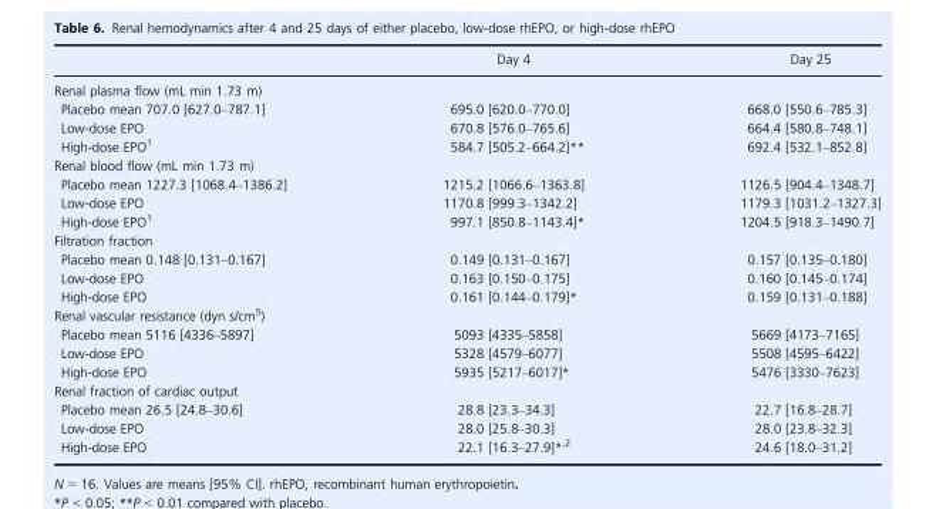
<table><thead><tr><td></td><td>Day 4</td><td>Day 25</td></tr></thead><tbody><tr><td colspan="3">Renal plasma flow (mL min 1.73 m)</td></tr><tr><td>Placebo mean 707.0 [627.0–787.1]</td><td>695.0 [620.0–770.0]</td><td>668.0 [550.6–785.3]</td></tr><tr><td>Low-dose EPO</td><td>670.8 [576.0–765.6]</td><td>664.4 [580.8–748.1]</td></tr><tr><td>High-dose EPO<sup>1</sup></td><td>584.7 [505.2–664.2]**</td><td>692.4 [532.1–852.8]</td></tr><tr><td colspan="3">Renal blood flow (mL min 1.73 m)</td></tr><tr><td>Placebo mean 1227.3 [1068.4–1386.2]</td><td>1215.2 [1066.6–1363.8]</td><td>1126.5 [904.4–1348.7]</td></tr><tr><td>Low-dose EPO</td><td>1170.8 [999.3–1342.2]</td><td>1179.3 [1031.2–1327.3]</td></tr><tr><td>High-dose EPO<sup>1</sup></td><td>997.1 [850.8–1143.4]*</td><td>1204.5 [918.3–1490.7]</td></tr><tr><td colspan="3">Filtration fraction</td></tr><tr><td>Placebo mean 0.148 [0.131–0.167]</td><td>0.149 [0.131–0.167]</td><td>0.157 [0.135–0.180]</td></tr><tr><td>Low-dose EPO</td><td>0.163 [0.150–0.175]</td><td>0.160 [0.145–0.174]</td></tr><tr><td>High-dose EPO</td><td>0.161 [0.144–0.179]*</td><td>0.159 [0.131–0.188]</td></tr><tr><td colspan="3">Renal vascular resistance (dyn s/cm<sup>5</sup>)</td></tr><tr><td>Placebo mean 5116 [4336–5897]</td><td>5093 [4335–5858]</td><td>5669 [4173–7165]</td></tr><tr><td>Low-dose EPO</td><td>5328 [4579–6077]</td><td>5508 [4595–6422]</td></tr><tr><td>High-dose EPO</td><td>5935 [5217–6017]*</td><td>5476 [3330–7623]</td></tr><tr><td colspan="3">Renal fraction of cardiac output</td></tr><tr><td>Placebo mean 26.5 [24.8–30.6]</td><td>28.8 [23.3–34.3]</td><td>22.7 [16.8–28.7]</td></tr><tr><td>Low-dose EPO</td><td>28.0 [25.8–30.3]</td><td>28.0 [23.8–32.3]</td></tr><tr><td>High-dose EPO</td><td>22.1 [16.3–27.9]*<sup>,</sup>2</td><td>24.6 [18.0–31.2]</td></tr></tbody></table>